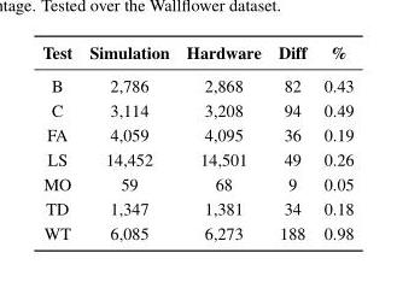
<table><thead><tr><td>Test</td><td>Simulation</td><td>Hardware</td><td>Diff</td><td>%</td></tr></thead><tbody><tr><td>B</td><td>2,786</td><td>2,868</td><td>82</td><td>0.43</td></tr><tr><td>C</td><td>3,114</td><td>3,208</td><td>94</td><td>0.49</td></tr><tr><td>FA</td><td>4,059</td><td>4,095</td><td>36</td><td>0.19</td></tr><tr><td>LS</td><td>14,452</td><td>14,501</td><td>49</td><td>0.26</td></tr><tr><td>MO</td><td>59</td><td>68</td><td>9</td><td>0.05</td></tr><tr><td>TD</td><td>1,347</td><td>1,381</td><td>34</td><td>0.18</td></tr><tr><td>WT</td><td>6,085</td><td>6,273</td><td>188</td><td>0.98</td></tr></tbody></table>